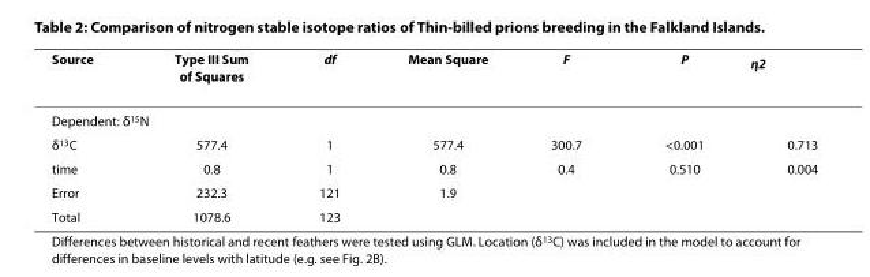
<table><thead><tr><td>Source</td><td>Type III Sum of Squares</td><td>df</td><td>Mean Square</td><td>F</td><td>P</td><td>η<sup>2</sup></td></tr></thead><tbody><tr><td colspan="7">Dependent: δ<sup>15</sup>N</td></tr><tr><td>δ<sup>13</sup>C</td><td>577.4</td><td>1</td><td>577.4</td><td>300.7</td><td>&lt;0.001</td><td>0.713</td></tr><tr><td>time</td><td>0.8</td><td>1</td><td>0.8</td><td>0.4</td><td>0.510</td><td>0.004</td></tr><tr><td>Error</td><td>232.3</td><td>121</td><td>1.9</td><td></td><td></td><td></td></tr><tr><td>Total</td><td>1078.6</td><td>123</td><td></td><td></td><td></td><td></td></tr></tbody></table>